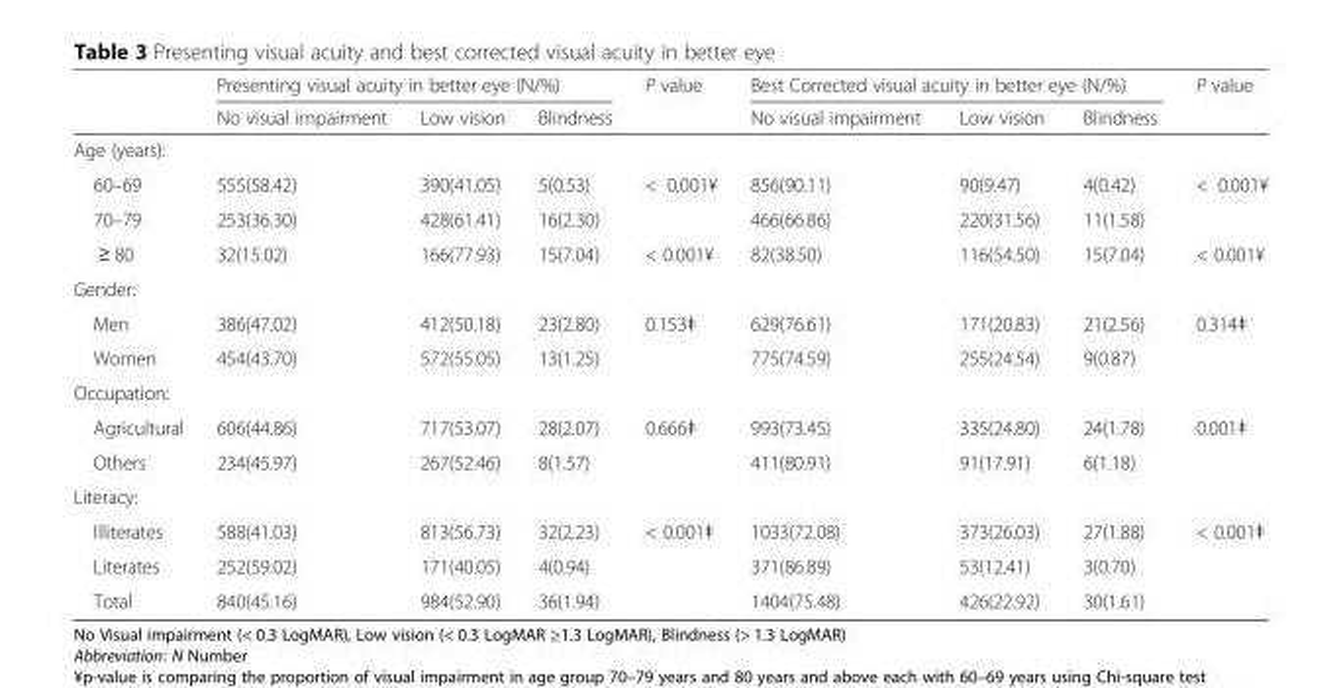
<table><thead><tr><td rowspan="2"></td><td colspan="3">Presenting visual acuity in better eye (N/%)</td><td rowspan="2">P value</td><td colspan="3">Best Corrected visual acuity in better eye (N/%)</td><td rowspan="2">P value</td></tr><tr><td>No visual impairment</td><td>Low vision</td><td>Blindness</td><td>No visual impairment</td><td>Low vision</td><td>Blindness</td></tr></thead><tbody><tr><td colspan="9">Age (years):</td></tr><tr><td>60–69</td><td>555(58.42)</td><td>390(41.05)</td><td>5(0.53)</td><td rowspan="2">&lt; 0.001¥</td><td>856(90.11)</td><td>90(9.47)</td><td>4(0.42)</td><td rowspan="2">&lt; 0.001¥</td></tr><tr><td>70–79</td><td>253(36.30)</td><td>428(61.41)</td><td>16(2.30)</td><td>466(66.86)</td><td>220(31.56)</td><td>11(1.58)</td></tr><tr><td>≥ 80</td><td>32(15.02)</td><td>166(77.93)</td><td>15(7.04)</td><td>&lt; 0.001¥</td><td>82(38.50)</td><td>116(54.50)</td><td>15(7.04)</td><td>&lt; 0.001¥</td></tr><tr><td colspan="9">Gender:</td></tr><tr><td>Men</td><td>386(47.02)</td><td>412(50.18)</td><td>23(2.80)</td><td rowspan="2">0.153ǂ</td><td>629(76.61)</td><td>171(20.83)</td><td>21(2.56)</td><td rowspan="2">0.314ǂ</td></tr><tr><td>Women</td><td>454(43.70)</td><td>572(55.05)</td><td>13(1.25)</td><td>775(74.59)</td><td>255(24.54)</td><td>9(0.87)</td></tr><tr><td colspan="9">Occupation:</td></tr><tr><td>Agricultural</td><td>606(44.86)</td><td>717(53.07)</td><td>28(2.07)</td><td rowspan="2">0.666ǂ</td><td>993(73.45)</td><td>335(24.80)</td><td>24(1.78)</td><td rowspan="2">0.001ǂ</td></tr><tr><td>Others</td><td>234(45.97)</td><td>267(52.46)</td><td>8(1.57)</td><td>411(80.91)</td><td>91(17.91)</td><td>6(1.18)</td></tr><tr><td colspan="9">Literacy:</td></tr><tr><td>Illiterates</td><td>588(41.03)</td><td>813(56.73)</td><td>32(2.23)</td><td rowspan="2">&lt; 0.001ǂ</td><td>1033(72.08)</td><td>373(26.03)</td><td>27(1.88)</td><td rowspan="2">&lt; 0.001ǂ</td></tr><tr><td>Literates</td><td>252(59.02)</td><td>171(40.05)</td><td>4(0.94)</td><td>371(86.89)</td><td>53(12.41)</td><td>3(0.70)</td></tr><tr><td>Total</td><td>840(45.16)</td><td>984(52.90)</td><td>36(1.94)</td><td></td><td>1404(75.48)</td><td>426(22.92)</td><td>30(1.61)</td><td></td></tr></tbody></table>